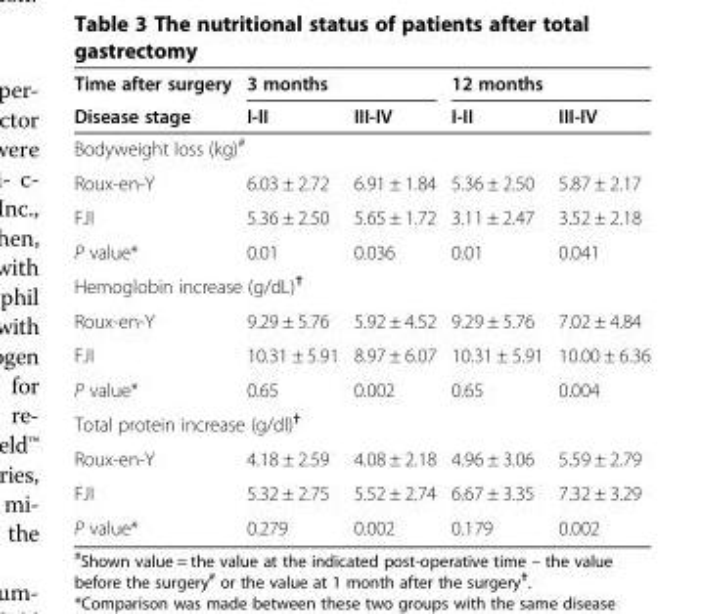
<table><thead><tr><td rowspan="2">Time after surgery Disease stage</td><td colspan="2">3 months</td><td colspan="2">12 months</td></tr><tr><td>I-II</td><td>III-IV</td><td>I-II</td><td>III-IV</td></tr></thead><tbody><tr><td colspan="5">Bodyweight loss (kg)<sup>#</sup></td></tr><tr><td>Roux-en-Y</td><td>6.03 ± 2.72</td><td>6.91 ± 1.84</td><td>5.36 ± 2.50</td><td>5.87 ± 2.17</td></tr><tr><td>FJI</td><td>5.36 ± 2.50</td><td>5.65 ± 1.72</td><td>3.11 ± 2.47</td><td>3.52 ± 2.18</td></tr><tr><td>P value*</td><td>0.01</td><td>0.036</td><td>0.01</td><td>0.041</td></tr><tr><td colspan="5">Hemoglobin increase (g/dL)<sup>†</sup></td></tr><tr><td>Roux-en-Y</td><td>9.29 ± 5.76</td><td>5.92 ± 4.52</td><td>9.29 ± 5.76</td><td>7.02 ± 4.84</td></tr><tr><td>FJI</td><td>10.31 ± 5.91</td><td>8.97 ± 6.07</td><td>10.31 ± 5.91</td><td>10.00 ± 6.36</td></tr><tr><td>P value*</td><td>0.65</td><td>0.002</td><td>0.65</td><td>0.004</td></tr><tr><td colspan="5">Total protein increase (g/dl)<sup>†</sup></td></tr><tr><td>Roux-en-Y</td><td>4.18 ± 2.59</td><td>4.08 ± 2.18</td><td>4.96 ± 3.06</td><td>5.59 ± 2.79</td></tr><tr><td>FJI</td><td>5.32 ± 2.75</td><td>5.52 ± 2.74</td><td>6.67 ± 3.35</td><td>7.32 ± 3.29</td></tr><tr><td>P value*</td><td>0.279</td><td>0.002</td><td>0.179</td><td>0.002</td></tr></tbody></table>